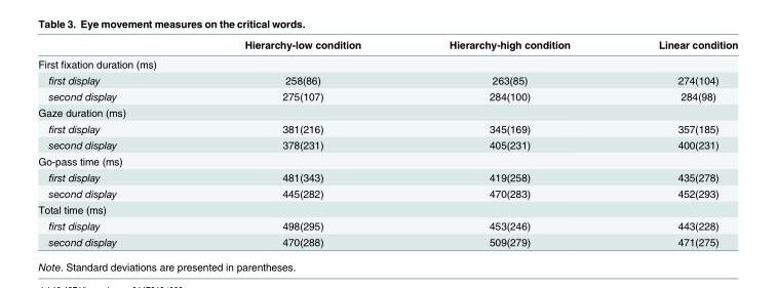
<table><thead><tr><td></td><td>Hierarchy-low condition</td><td>Hierarchy-high condition</td><td>Linear condition</td></tr></thead><tbody><tr><td colspan="4">First fixation duration (ms)</td></tr><tr><td>first display</td><td>258(86)</td><td>263(85)</td><td>274(104)</td></tr><tr><td>second display</td><td>275(107)</td><td>284(100)</td><td>284(98)</td></tr><tr><td colspan="4">Gaze duration (ms)</td></tr><tr><td>first display</td><td>381(216)</td><td>345(169)</td><td>357(185)</td></tr><tr><td>second display</td><td>378(231)</td><td>405(231)</td><td>400(231)</td></tr><tr><td colspan="4">Go-pass time (ms)</td></tr><tr><td>first display</td><td>481(343)</td><td>419(258)</td><td>435(278)</td></tr><tr><td>second display</td><td>445(282)</td><td>470(283)</td><td>452(293)</td></tr><tr><td colspan="4">Total time (ms)</td></tr><tr><td>first display</td><td>498(295)</td><td>453(246)</td><td>443(228)</td></tr><tr><td>second display</td><td>470(288)</td><td>509(279)</td><td>471(275)</td></tr></tbody></table>